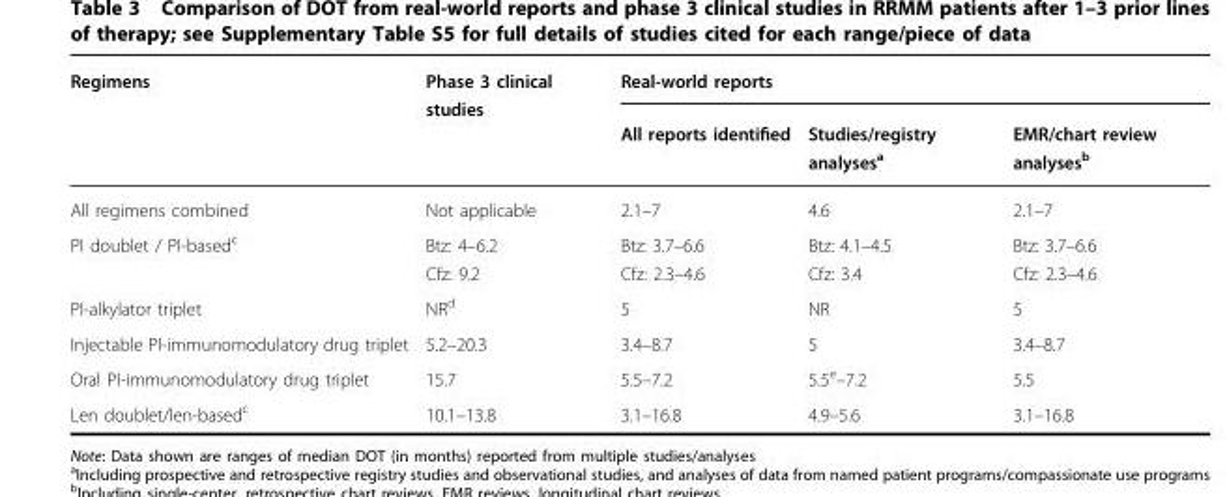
<table><thead><tr><td rowspan="2">Regimens</td><td rowspan="2">Phase 3 clinical studies</td><td colspan="3">Real-world reports</td></tr><tr><td>All reports identified</td><td>Studies/registry analyses<sup>a</sup></td><td>EMR/chart review analyses<sup>b</sup></td></tr></thead><tbody><tr><td>All regimens combined</td><td>Not applicable</td><td>2.1–7</td><td>4.6</td><td>2.1–7</td></tr><tr><td>PI doublet / PI-based<sup>c</sup></td><td>Btz: 4–6.2 Cfz: 9.2</td><td>Btz: 3.7–6.6 Cfz: 2.3–4.6</td><td>Btz: 4.1–4.5 Cfz: 3.4</td><td>Btz: 3.7–6.6 Cfz: 2.3–4.6</td></tr><tr><td>PI-alkylator triplet</td><td>NR<sup>d</sup></td><td>5</td><td>NR</td><td>5</td></tr><tr><td>Injectable PI-immunomodulatory drug triplet</td><td>5.2–20.3</td><td>3.4–8.7</td><td>5</td><td>3.4–8.7</td></tr><tr><td>Oral PI-immunomodulatory drug triplet</td><td>15.7</td><td>5.5–7.2</td><td>5.5<sup>e</sup>–7.2</td><td>5.5</td></tr><tr><td>Len doublet/len-based<sup>c</sup></td><td>10.1–13.8</td><td>3.1–16.8</td><td>4.9–5.6</td><td>3.1–16.8</td></tr></tbody></table>